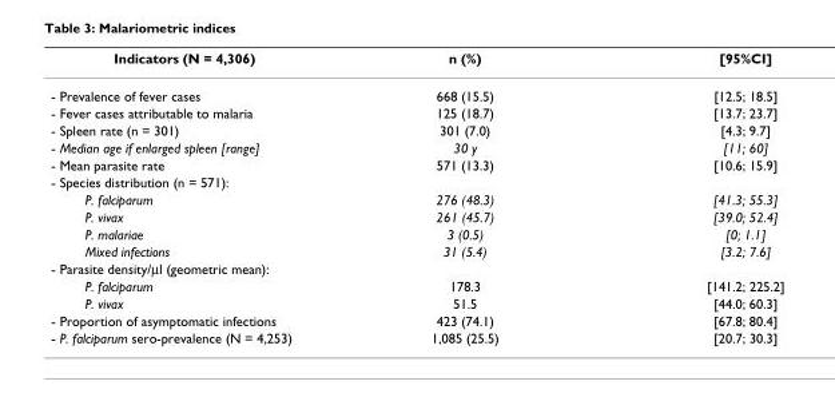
<table><thead><tr><td>Indicators (N = 4,306)</td><td>n (%)</td><td>[95%CI]</td></tr></thead><tbody><tr><td>- Prevalence of fever cases</td><td>668 (15.5)</td><td>[12.5; 18.5]</td></tr><tr><td>- Fever cases attributable to malaria</td><td>125 (18.7)</td><td>[13.7; 23.7]</td></tr><tr><td>- Spleen rate (n = 301)</td><td>301 (7.0)</td><td>[4.3; 9.7]</td></tr><tr><td>- Median age if enlarged spleen [range]</td><td>30 y</td><td>[11; 60]</td></tr><tr><td>- Mean parasite rate</td><td>571 (13.3)</td><td>[10.6; 15.9]</td></tr><tr><td colspan="3">- Species distribution (n = 571):</td></tr><tr><td>P. falciparum</td><td>276 (48.3)</td><td>[41.3; 55.3]</td></tr><tr><td>P. vivax</td><td>261 (45.7)</td><td>[39.0; 52.4]</td></tr><tr><td>P. malariae</td><td>3 (0.5)</td><td>[0; 1.1]</td></tr><tr><td>Mixed infections</td><td>31 (5.4)</td><td>[3.2; 7.6]</td></tr><tr><td colspan="3">- Parasite density/µl (geometric mean):</td></tr><tr><td>P. falciparum</td><td>178.3</td><td>[141.2; 225.2]</td></tr><tr><td>P. vivax</td><td>51.5</td><td>[44.0; 60.3]</td></tr><tr><td>- Proportion of asymptomatic infections</td><td>423 (74.1)</td><td>[67.8; 80.4]</td></tr><tr><td>- P. falciparum sero-prevalence (N = 4,253)</td><td>1,085 (25.5)</td><td>[20.7; 30.3]</td></tr></tbody></table>